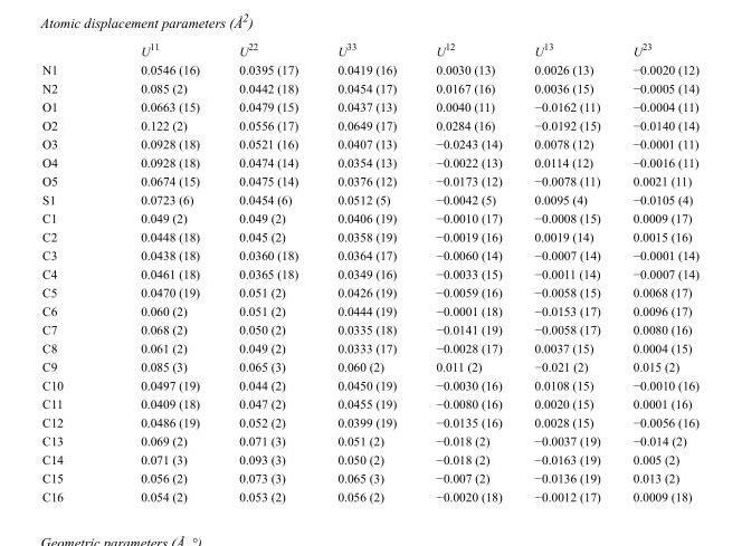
<table><thead><tr><td></td><td>U<sup>11</sup></td><td>U<sup>22</sup></td><td>U<sup>33</sup></td><td>U<sup>12</sup></td><td>U<sup>13</sup></td><td>U<sup>23</sup></td></tr></thead><tbody><tr><td>N1</td><td>0.0546 (16)</td><td>0.0395 (17)</td><td>0.0419 (16)</td><td>0.0030 (13)</td><td>0.0026 (13)</td><td>−0.0020 (12)</td></tr><tr><td>N2</td><td>0.085 (2)</td><td>0.0442 (18)</td><td>0.0454 (17)</td><td>0.0167 (16)</td><td>0.0036 (15)</td><td>−0.0005 (14)</td></tr><tr><td>O1</td><td>0.0663 (15)</td><td>0.0479 (15)</td><td>0.0437 (13)</td><td>0.0040 (11)</td><td>−0.0162 (11)</td><td>−0.0004 (11)</td></tr><tr><td>O2</td><td>0.122 (2)</td><td>0.0556 (17)</td><td>0.0649 (17)</td><td>0.0284 (16)</td><td>−0.0192 (15)</td><td>−0.0140 (14)</td></tr><tr><td>O3</td><td>0.0928 (18)</td><td>0.0521 (16)</td><td>0.0407 (13)</td><td>−0.0243 (14)</td><td>0.0078 (12)</td><td>−0.0001 (11)</td></tr><tr><td>O4</td><td>0.0928 (18)</td><td>0.0474 (14)</td><td>0.0354 (13)</td><td>−0.0022 (13)</td><td>0.0114 (12)</td><td>−0.0016 (11)</td></tr><tr><td>O5</td><td>0.0674 (15)</td><td>0.0475 (14)</td><td>0.0376 (12)</td><td>−0.0173 (12)</td><td>−0.0078 (11)</td><td>0.0021 (11)</td></tr><tr><td>S1</td><td>0.0723 (6)</td><td>0.0454 (6)</td><td>0.0512 (5)</td><td>−0.0042 (5)</td><td>0.0095 (4)</td><td>−0.0105 (4)</td></tr><tr><td>C1</td><td>0.049 (2)</td><td>0.049 (2)</td><td>0.0406 (19)</td><td>−0.0010 (17)</td><td>−0.0008 (15)</td><td>0.0009 (17)</td></tr><tr><td>C2</td><td>0.0448 (18)</td><td>0.045 (2)</td><td>0.0358 (19)</td><td>−0.0019 (16)</td><td>0.0019 (14)</td><td>0.0015 (16)</td></tr><tr><td>C3</td><td>0.0438 (18)</td><td>0.0360 (18)</td><td>0.0364 (17)</td><td>−0.0060 (14)</td><td>−0.0007 (14)</td><td>−0.0001 (14)</td></tr><tr><td>C4</td><td>0.0461 (18)</td><td>0.0365 (18)</td><td>0.0349 (16)</td><td>−0.0033 (15)</td><td>−0.0011 (14)</td><td>−0.0007 (14)</td></tr><tr><td>C5</td><td>0.0470 (19)</td><td>0.051 (2)</td><td>0.0426 (19)</td><td>−0.0059 (16)</td><td>−0.0058 (15)</td><td>0.0068 (17)</td></tr><tr><td>C6</td><td>0.060 (2)</td><td>0.051 (2)</td><td>0.0444 (19)</td><td>−0.0001 (18)</td><td>−0.0153 (17)</td><td>0.0096 (17)</td></tr><tr><td>C7</td><td>0.068 (2)</td><td>0.050 (2)</td><td>0.0335 (18)</td><td>−0.0141 (19)</td><td>−0.0058 (17)</td><td>0.0080 (16)</td></tr><tr><td>C8</td><td>0.061 (2)</td><td>0.049 (2)</td><td>0.0333 (17)</td><td>−0.0028 (17)</td><td>0.0037 (15)</td><td>0.0004 (15)</td></tr><tr><td>C9</td><td>0.085 (3)</td><td>0.065 (3)</td><td>0.060 (2)</td><td>0.011 (2)</td><td>−0.021 (2)</td><td>0.015 (2)</td></tr><tr><td>C10</td><td>0.0497 (19)</td><td>0.044 (2)</td><td>0.0450 (19)</td><td>−0.0030 (16)</td><td>0.0108 (15)</td><td>−0.0010 (16)</td></tr><tr><td>C11</td><td>0.0409 (18)</td><td>0.047 (2)</td><td>0.0455 (19)</td><td>−0.0080 (16)</td><td>0.0020 (15)</td><td>0.0001 (16)</td></tr><tr><td>C12</td><td>0.0486 (19)</td><td>0.052 (2)</td><td>0.0399 (19)</td><td>−0.0135 (16)</td><td>0.0028 (15)</td><td>−0.0056 (16)</td></tr><tr><td>C13</td><td>0.069 (2)</td><td>0.071 (3)</td><td>0.051 (2)</td><td>−0.018 (2)</td><td>−0.0037 (19)</td><td>−0.014 (2)</td></tr><tr><td>C14</td><td>0.071 (3)</td><td>0.093 (3)</td><td>0.050 (2)</td><td>−0.018 (2)</td><td>−0.0163 (19)</td><td>0.005 (2)</td></tr><tr><td>C15</td><td>0.056 (2)</td><td>0.073 (3)</td><td>0.065 (3)</td><td>−0.007 (2)</td><td>−0.0136 (19)</td><td>0.013 (2)</td></tr><tr><td>C16</td><td>0.054 (2)</td><td>0.053 (2)</td><td>0.056 (2)</td><td>−0.0020 (18)</td><td>−0.0012 (17)</td><td>0.0009 (18)</td></tr></tbody></table>